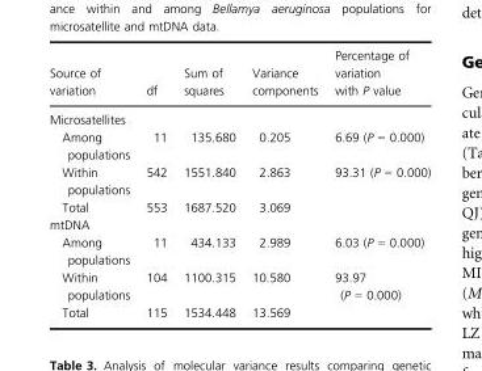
<table><thead><tr><td>Source of variation</td><td>df</td><td>Sum of squares</td><td>Variance components</td><td>Percentage of variation with P value</td></tr></thead><tbody><tr><td colspan="5">Microsatellites</td></tr><tr><td>Among populations</td><td>11</td><td>135.680</td><td>0.205</td><td>6.69 (P = 0.000)</td></tr><tr><td>Within populations</td><td>542</td><td>1551.840</td><td>2.863</td><td>93.31 (P = 0.000)</td></tr><tr><td>Total</td><td>553</td><td>1687.520</td><td>3.069</td><td></td></tr><tr><td colspan="5">mtDNA</td></tr><tr><td>Among populations</td><td>11</td><td>434.133</td><td>2.989</td><td>6.03 (P = 0.000)</td></tr><tr><td>Within populations</td><td>104</td><td>1100.315</td><td>10.580</td><td>93.97 (P = 0.000)</td></tr><tr><td>Total</td><td>115</td><td>1534.448</td><td>13.569</td><td></td></tr></tbody></table>